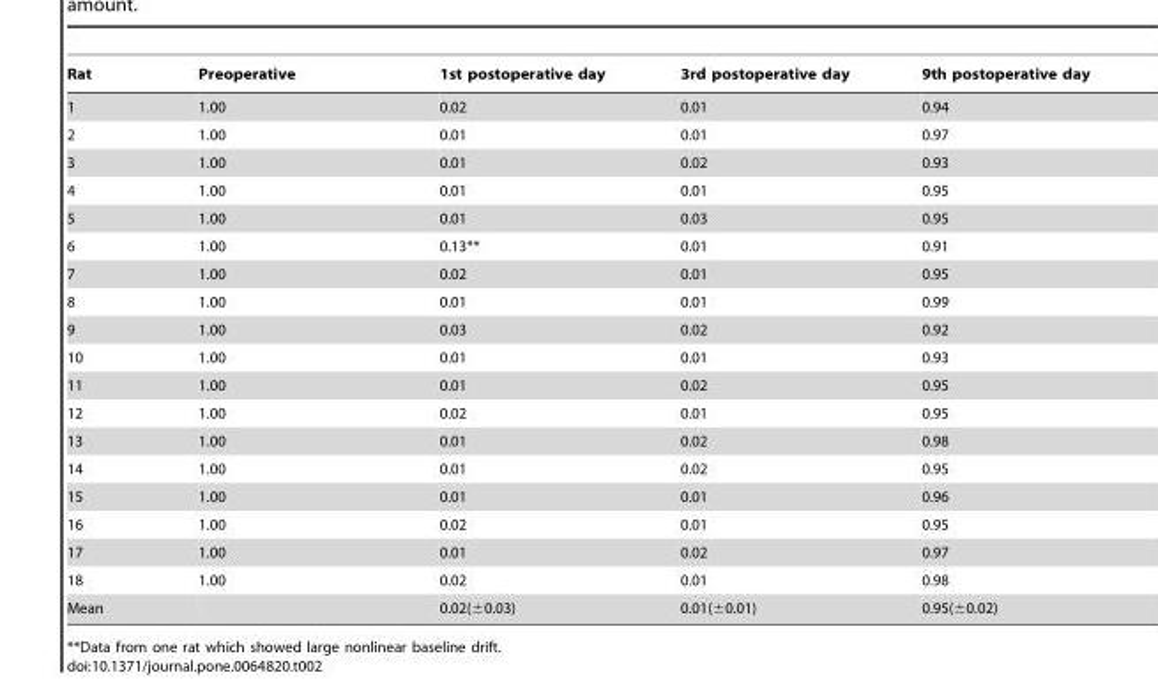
<table><thead><tr><td>Rat</td><td>Preoperative</td><td>1st postoperative day</td><td>3rd postoperative day</td><td>9th postoperative day</td></tr></thead><tbody><tr><td>1</td><td>1.00</td><td>0.02</td><td>0.01</td><td>0.94</td></tr><tr><td>2</td><td>1.00</td><td>0.01</td><td>0.01</td><td>0.97</td></tr><tr><td>3</td><td>1.00</td><td>0.01</td><td>0.02</td><td>0.93</td></tr><tr><td>4</td><td>1.00</td><td>0.01</td><td>0.01</td><td>0.95</td></tr><tr><td>5</td><td>1.00</td><td>0.01</td><td>0.03</td><td>0.95</td></tr><tr><td>6</td><td>1.00</td><td>0.13**</td><td>0.01</td><td>0.91</td></tr><tr><td>7</td><td>1.00</td><td>0.02</td><td>0.01</td><td>0.95</td></tr><tr><td>8</td><td>1.00</td><td>0.01</td><td>0.01</td><td>0.99</td></tr><tr><td>9</td><td>1.00</td><td>0.03</td><td>0.02</td><td>0.92</td></tr><tr><td>10</td><td>1.00</td><td>0.01</td><td>0.01</td><td>0.93</td></tr><tr><td>11</td><td>1.00</td><td>0.01</td><td>0.02</td><td>0.95</td></tr><tr><td>12</td><td>1.00</td><td>0.02</td><td>0.01</td><td>0.95</td></tr><tr><td>13</td><td>1.00</td><td>0.01</td><td>0.02</td><td>0.98</td></tr><tr><td>14</td><td>1.00</td><td>0.01</td><td>0.02</td><td>0.95</td></tr><tr><td>15</td><td>1.00</td><td>0.01</td><td>0.01</td><td>0.96</td></tr><tr><td>16</td><td>1.00</td><td>0.02</td><td>0.01</td><td>0.95</td></tr><tr><td>17</td><td>1.00</td><td>0.01</td><td>0.02</td><td>0.97</td></tr><tr><td>18</td><td>1.00</td><td>0.02</td><td>0.01</td><td>0.98</td></tr><tr><td>Mean</td><td></td><td>0.02(±0.03)</td><td>0.01(±0.01)</td><td>0.95(±0.02)</td></tr></tbody></table>